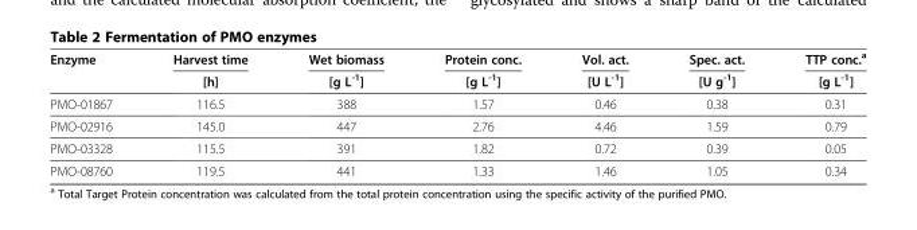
<table><thead><tr><td rowspan="2">Enzyme</td><td rowspan="2">Harvest time [h]</td><td rowspan="2">Wet biomass [g L<sup>-1</sup>]</td><td rowspan="2">Protein conc. [g L<sup>-1</sup>]</td><td rowspan="2">Vol. act. [U L<sup>-1</sup>]</td><td rowspan="2">Spec. act. [U g<sup>-1</sup>]</td><td rowspan="2">TTP conc.<sup>a</sup> [g L<sup>-1</sup>]</td></tr><tr></tr></thead><tbody><tr><td>PMO-01867</td><td>116.5</td><td>388</td><td>1.57</td><td>0.46</td><td>0.38</td><td>0.31</td></tr><tr><td>PMO-02916</td><td>145.0</td><td>447</td><td>2.76</td><td>4.46</td><td>1.59</td><td>0.79</td></tr><tr><td>PMO-03328</td><td>115.5</td><td>391</td><td>1.82</td><td>0.72</td><td>0.39</td><td>0.05</td></tr><tr><td>PMO-08760</td><td>119.5</td><td>441</td><td>1.33</td><td>1.46</td><td>1.05</td><td>0.34</td></tr></tbody></table>